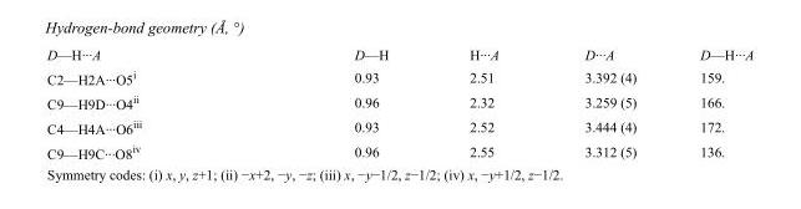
<table><tbody><tr><td>D—H···A</td><td>D—H</td><td>H···A</td><td>D···A</td><td>D—H···A</td></tr><tr><td>C2—H2A···O5<sup>i</sup></td><td>0.93</td><td>2.51</td><td>3.392 (4)</td><td>159.</td></tr><tr><td>C9—H9D···O4<sup>ii</sup></td><td>0.96</td><td>2.32</td><td>3.259 (5)</td><td>166.</td></tr><tr><td>C4—H4A···O6<sup>iii</sup></td><td>0.93</td><td>2.52</td><td>3.444 (4)</td><td>172.</td></tr><tr><td>C9—H9C···O8<sup>iv</sup></td><td>0.96</td><td>2.55</td><td>3.312 (5)</td><td>136.</td></tr></tbody></table>